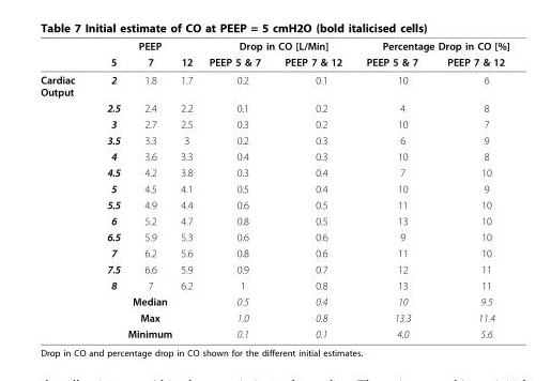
<table><thead><tr><td rowspan="2"></td><td colspan="3">PEEP</td><td colspan="2">Drop in CO [L/Min]</td><td colspan="2">Percentage Drop in CO [%]</td></tr><tr><td>5</td><td>7</td><td>12</td><td>PEEP 5 &amp; 7</td><td>PEEP 7 &amp; 12</td><td>PEEP 5 &amp; 7</td><td>PEEP 7 &amp; 12</td></tr></thead><tbody><tr><td rowspan="16">Cardiac Output</td><td>2</td><td>1.8</td><td>1.7</td><td>0.2</td><td>0.1</td><td>10</td><td>6</td></tr><tr><td>2.5</td><td>2.4</td><td>2.2</td><td>0.1</td><td>0.2</td><td>4</td><td>8</td></tr><tr><td>3</td><td>2.7</td><td>2.5</td><td>0.3</td><td>0.2</td><td>10</td><td>7</td></tr><tr><td>3.5</td><td>3.3</td><td>3</td><td>0.2</td><td>0.3</td><td>6</td><td>9</td></tr><tr><td>4</td><td>3.6</td><td>3.3</td><td>0.4</td><td>0.3</td><td>10</td><td>8</td></tr><tr><td>4.5</td><td>4.2</td><td>3.8</td><td>0.3</td><td>0.4</td><td>7</td><td>10</td></tr><tr><td>5</td><td>4.5</td><td>4.1</td><td>0.5</td><td>0.4</td><td>10</td><td>9</td></tr><tr><td>5.5</td><td>4.9</td><td>4.4</td><td>0.6</td><td>0.5</td><td>11</td><td>10</td></tr><tr><td>6</td><td>5.2</td><td>4.7</td><td>0.8</td><td>0.5</td><td>13</td><td>10</td></tr><tr><td>6.5</td><td>5.9</td><td>5.3</td><td>0.6</td><td>0.6</td><td>9</td><td>10</td></tr><tr><td>7</td><td>6.2</td><td>5.6</td><td>0.8</td><td>0.6</td><td>11</td><td>10</td></tr><tr><td>7.5</td><td>6.6</td><td>5.9</td><td>0.9</td><td>0.7</td><td>12</td><td>11</td></tr><tr><td>8</td><td>7</td><td>6.2</td><td>1</td><td>0.8</td><td>13</td><td>11</td></tr><tr><td colspan="3">Median</td><td>0.5</td><td>0.4</td><td>10</td><td>9.5</td></tr><tr><td colspan="3">Max</td><td>1.0</td><td>0.8</td><td>13.3</td><td>11.4</td></tr><tr><td colspan="3">Minimum</td><td>0.1</td><td>0.1</td><td>4.0</td><td>5.6</td></tr></tbody></table>